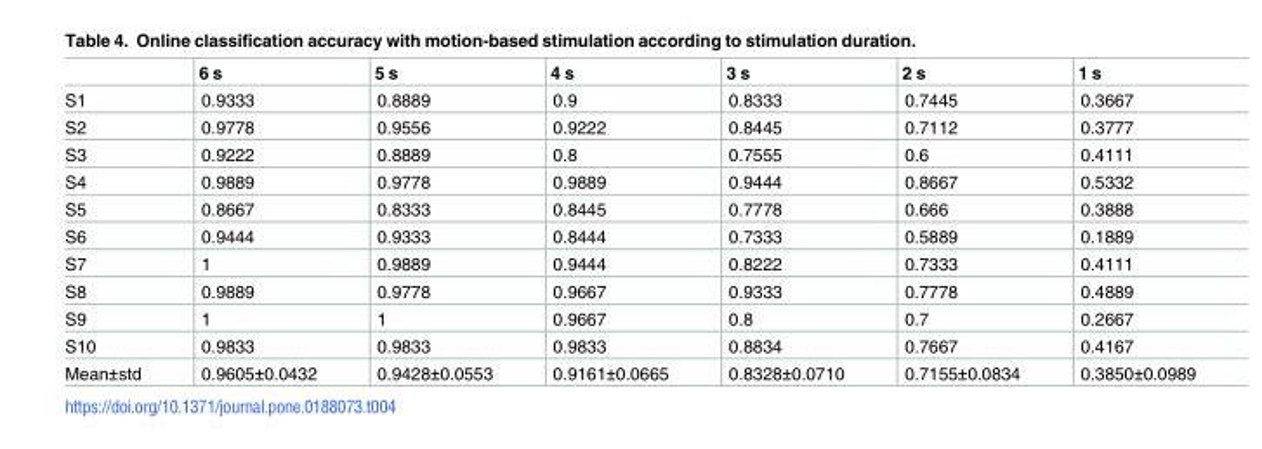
<table><thead><tr><td></td><td>6 s</td><td>5 s</td><td>4 s</td><td>3 s</td><td>2 s</td><td>1 s</td></tr></thead><tbody><tr><td>S1</td><td>0.9333</td><td>0.8889</td><td>0.9</td><td>0.8333</td><td>0.7445</td><td>0.3667</td></tr><tr><td>S2</td><td>0.9778</td><td>0.9556</td><td>0.9222</td><td>0.8445</td><td>0.7112</td><td>0.3777</td></tr><tr><td>S3</td><td>0.9222</td><td>0.8889</td><td>0.8</td><td>0.7555</td><td>0.6</td><td>0.4111</td></tr><tr><td>S4</td><td>0.9889</td><td>0.9778</td><td>0.9889</td><td>0.9444</td><td>0.8667</td><td>0.5332</td></tr><tr><td>S5</td><td>0.8667</td><td>0.8333</td><td>0.8445</td><td>0.7778</td><td>0.666</td><td>0.3888</td></tr><tr><td>S6</td><td>0.9444</td><td>0.9333</td><td>0.8444</td><td>0.7333</td><td>0.5889</td><td>0.1889</td></tr><tr><td>S7</td><td>1</td><td>0.9889</td><td>0.9444</td><td>0.8222</td><td>0.7333</td><td>0.4111</td></tr><tr><td>S8</td><td>0.9889</td><td>0.9778</td><td>0.9667</td><td>0.9333</td><td>0.7778</td><td>0.4889</td></tr><tr><td>S9</td><td>1</td><td>1</td><td>0.9667</td><td>0.8</td><td>0.7</td><td>0.2667</td></tr><tr><td>S10</td><td>0.9833</td><td>0.9833</td><td>0.9833</td><td>0.8834</td><td>0.7667</td><td>0.4167</td></tr><tr><td>Mean±std</td><td>0.9605±0.0432</td><td>0.9428±0.0553</td><td>0.9161±0.0665</td><td>0.8328±0.0710</td><td>0.7155±0.0834</td><td>0.3850±0.0989</td></tr></tbody></table>